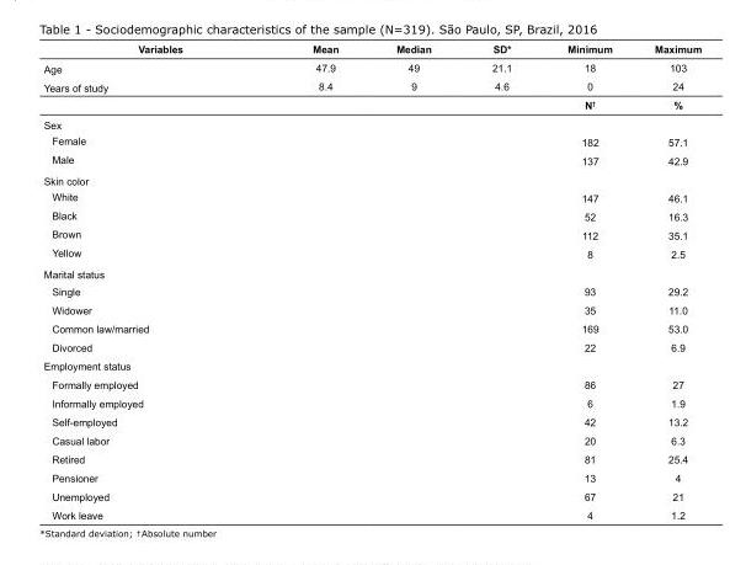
<table><tbody><tr><td>Variables</td><td>Mean</td><td>Median</td><td>SD*</td><td>Minimum</td><td>Maximum</td></tr><tr><td>Age</td><td>47.9</td><td>49</td><td>21.1</td><td>18</td><td>103</td></tr><tr><td rowspan="2">Years of study</td><td>8.4</td><td>9</td><td>4.6</td><td>0</td><td>24</td></tr><tr><td></td><td></td><td></td><td>N<sup>†</sup></td><td>%</td></tr><tr><td colspan="6">Sex</td></tr><tr><td>Female</td><td></td><td></td><td></td><td>182</td><td>57.1</td></tr><tr><td>Male</td><td></td><td></td><td></td><td>137</td><td>42.9</td></tr><tr><td colspan="6">Skin color</td></tr><tr><td>White</td><td></td><td></td><td></td><td>147</td><td>46.1</td></tr><tr><td>Black</td><td></td><td></td><td></td><td>52</td><td>16.3</td></tr><tr><td>Brown</td><td></td><td></td><td></td><td>112</td><td>35.1</td></tr><tr><td>Yellow</td><td></td><td></td><td></td><td>8</td><td>2.5</td></tr><tr><td colspan="6">Marital status</td></tr><tr><td>Single</td><td></td><td></td><td></td><td>93</td><td>29.2</td></tr><tr><td>Widower</td><td></td><td></td><td></td><td>35</td><td>11.0</td></tr><tr><td>Common law/married</td><td></td><td></td><td></td><td>169</td><td>53.0</td></tr><tr><td>Divorced</td><td></td><td></td><td></td><td>22</td><td>6.9</td></tr><tr><td colspan="6">Employment status</td></tr><tr><td>Formally employed</td><td></td><td></td><td></td><td>86</td><td>27</td></tr><tr><td>Informally employed</td><td></td><td></td><td></td><td>6</td><td>1.9</td></tr><tr><td>Self-employed</td><td></td><td></td><td></td><td>42</td><td>13.2</td></tr><tr><td>Casual labor</td><td></td><td></td><td></td><td>20</td><td>6.3</td></tr><tr><td>Retired</td><td></td><td></td><td></td><td>81</td><td>25.4</td></tr><tr><td>Pensioner</td><td></td><td></td><td></td><td>13</td><td>4</td></tr><tr><td>Unemployed</td><td></td><td></td><td></td><td>67</td><td>21</td></tr><tr><td>Work leave</td><td></td><td></td><td></td><td>4</td><td>1.2</td></tr></tbody></table>